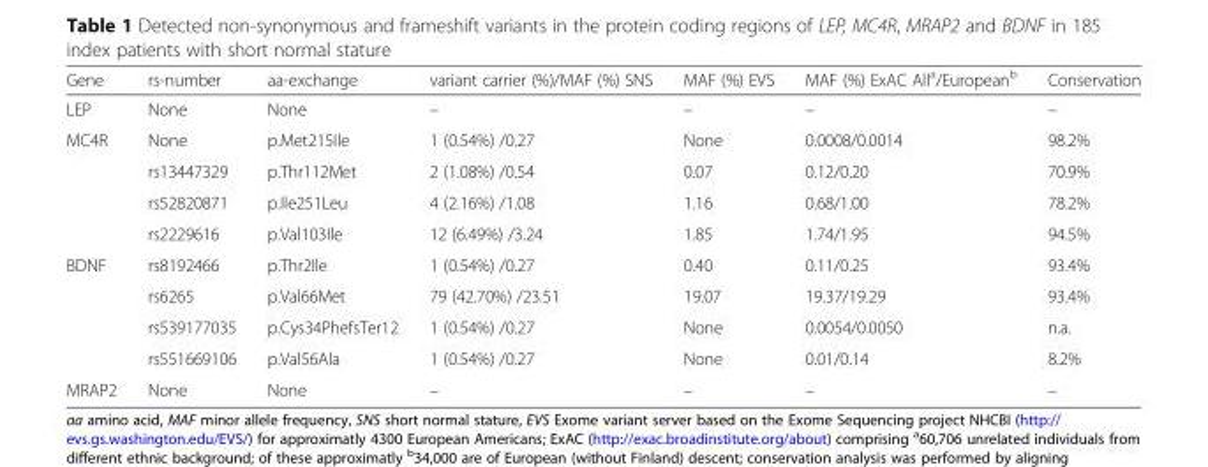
<table><thead><tr><td>Gene</td><td>rs-number</td><td>aa-exchange</td><td>variant carrier (%)/MAF (%) SNS</td><td>MAF (%) EVS</td><td>MAF (%) ExAC All<sup>a</sup>/European<sup>b</sup></td><td>Conservation</td></tr></thead><tbody><tr><td>LEP</td><td>None</td><td>None</td><td>–</td><td>–</td><td>–</td><td>–</td></tr><tr><td rowspan="4">MC4R</td><td>None</td><td>p.Met215Ile</td><td>1 (0.54%) /0.27</td><td>None</td><td>0.0008/0.0014</td><td>98.2%</td></tr><tr><td>rs13447329</td><td>p.Thr112Met</td><td>2 (1.08%) /0.54</td><td>0.07</td><td>0.12/0.20</td><td>70.9%</td></tr><tr><td>rs52820871</td><td>p.Ile251Leu</td><td>4 (2.16%) /1.08</td><td>1.16</td><td>0.68/1.00</td><td>78.2%</td></tr><tr><td>rs2229616</td><td>p.Val103Ile</td><td>12 (6.49%) /3.24</td><td>1.85</td><td>1.74/1.95</td><td>94.5%</td></tr><tr><td rowspan="4">BDNF</td><td>rs8192466</td><td>p.Thr2Ile</td><td>1 (0.54%) /0.27</td><td>0.40</td><td>0.11/0.25</td><td>93.4%</td></tr><tr><td>rs6265</td><td>p.Val66Met</td><td>79 (42.70%) /23.51</td><td>19.07</td><td>19.37/19.29</td><td>93.4%</td></tr><tr><td>rs539177035</td><td>p.Cys34PhefsTer12</td><td>1 (0.54%) /0.27</td><td>None</td><td>0.0054/0.0050</td><td>n.a.</td></tr><tr><td>rs551669106</td><td>p.Val56Ala</td><td>1 (0.54%) /0.27</td><td>None</td><td>0.01/0.14</td><td>8.2%</td></tr><tr><td>MRAP2</td><td>None</td><td>None</td><td>–</td><td>–</td><td>–</td><td>–</td></tr></tbody></table>